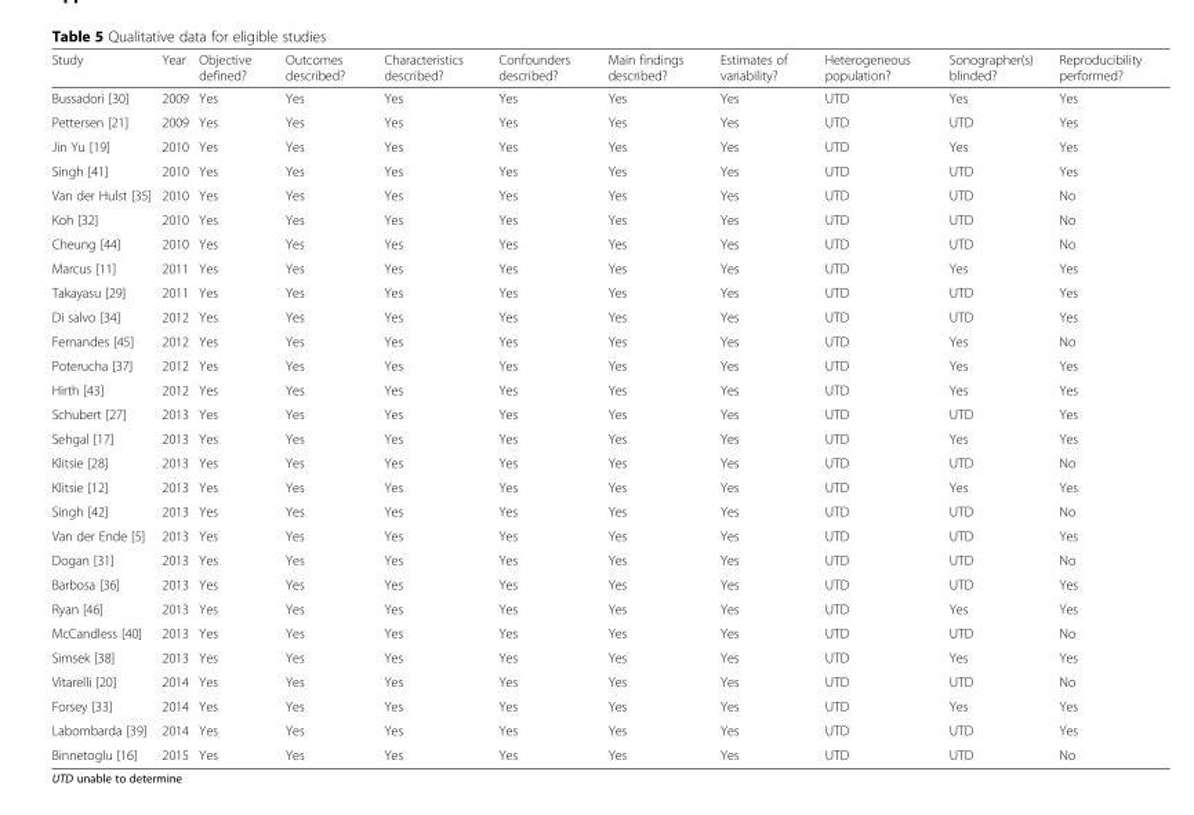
<table><thead><tr><td>Study</td><td>Year</td><td>Objective defined?</td><td>Outcomes described?</td><td>Characteristics described?</td><td>Confounders described?</td><td>Main findings described?</td><td>Estimates of variability?</td><td>Heterogeneous population?</td><td>Sonographer(s) blinded?</td><td>Reproducibility performed?</td></tr></thead><tbody><tr><td>Bussadori [30]</td><td>2009</td><td>Yes</td><td>Yes</td><td>Yes</td><td>Yes</td><td>Yes</td><td>Yes</td><td>UTD</td><td>Yes</td><td>Yes</td></tr><tr><td>Pettersen [21]</td><td>2009</td><td>Yes</td><td>Yes</td><td>Yes</td><td>Yes</td><td>Yes</td><td>Yes</td><td>UTD</td><td>UTD</td><td>Yes</td></tr><tr><td>Jin Yu [19]</td><td>2010</td><td>Yes</td><td>Yes</td><td>Yes</td><td>Yes</td><td>Yes</td><td>Yes</td><td>UTD</td><td>Yes</td><td>Yes</td></tr><tr><td>Singh [41]</td><td>2010</td><td>Yes</td><td>Yes</td><td>Yes</td><td>Yes</td><td>Yes</td><td>Yes</td><td>UTD</td><td>UTD</td><td>Yes</td></tr><tr><td>Van der Hulst [35]</td><td>2010</td><td>Yes</td><td>Yes</td><td>Yes</td><td>Yes</td><td>Yes</td><td>Yes</td><td>UTD</td><td>UTD</td><td>No</td></tr><tr><td>Koh [32]</td><td>2010</td><td>Yes</td><td>Yes</td><td>Yes</td><td>Yes</td><td>Yes</td><td>Yes</td><td>UTD</td><td>UTD</td><td>No</td></tr><tr><td>Cheung [44]</td><td>2010</td><td>Yes</td><td>Yes</td><td>Yes</td><td>Yes</td><td>Yes</td><td>Yes</td><td>UTD</td><td>UTD</td><td>No</td></tr><tr><td>Marcus [11]</td><td>2011</td><td>Yes</td><td>Yes</td><td>Yes</td><td>Yes</td><td>Yes</td><td>Yes</td><td>UTD</td><td>Yes</td><td>Yes</td></tr><tr><td>Takayasu [29]</td><td>2011</td><td>Yes</td><td>Yes</td><td>Yes</td><td>Yes</td><td>Yes</td><td>Yes</td><td>UTD</td><td>UTD</td><td>Yes</td></tr><tr><td>Di salvo [34]</td><td>2012</td><td>Yes</td><td>Yes</td><td>Yes</td><td>Yes</td><td>Yes</td><td>Yes</td><td>UTD</td><td>UTD</td><td>Yes</td></tr><tr><td>Fernandes [45]</td><td>2012</td><td>Yes</td><td>Yes</td><td>Yes</td><td>Yes</td><td>Yes</td><td>Yes</td><td>UTD</td><td>Yes</td><td>No</td></tr><tr><td>Poterucha [37]</td><td>2012</td><td>Yes</td><td>Yes</td><td>Yes</td><td>Yes</td><td>Yes</td><td>Yes</td><td>UTD</td><td>Yes</td><td>Yes</td></tr><tr><td>Hirth [43]</td><td>2012</td><td>Yes</td><td>Yes</td><td>Yes</td><td>Yes</td><td>Yes</td><td>Yes</td><td>UTD</td><td>Yes</td><td>Yes</td></tr><tr><td>Schubert [27]</td><td>2013</td><td>Yes</td><td>Yes</td><td>Yes</td><td>Yes</td><td>Yes</td><td>Yes</td><td>UTD</td><td>UTD</td><td>Yes</td></tr><tr><td>Sehgal [17]</td><td>2013</td><td>Yes</td><td>Yes</td><td>Yes</td><td>Yes</td><td>Yes</td><td>Yes</td><td>UTD</td><td>Yes</td><td>Yes</td></tr><tr><td>Klitsie [28]</td><td>2013</td><td>Yes</td><td>Yes</td><td>Yes</td><td>Yes</td><td>Yes</td><td>Yes</td><td>UTD</td><td>UTD</td><td>No</td></tr><tr><td>Klitsie [12]</td><td>2013</td><td>Yes</td><td>Yes</td><td>Yes</td><td>Yes</td><td>Yes</td><td>Yes</td><td>UTD</td><td>Yes</td><td>Yes</td></tr><tr><td>Singh [42]</td><td>2013</td><td>Yes</td><td>Yes</td><td>Yes</td><td>Yes</td><td>Yes</td><td>Yes</td><td>UTD</td><td>UTD</td><td>No</td></tr><tr><td>Van der Ende [5]</td><td>2013</td><td>Yes</td><td>Yes</td><td>Yes</td><td>Yes</td><td>Yes</td><td>Yes</td><td>UTD</td><td>UTD</td><td>Yes</td></tr><tr><td>Dogan [31]</td><td>2013</td><td>Yes</td><td>Yes</td><td>Yes</td><td>Yes</td><td>Yes</td><td>Yes</td><td>UTD</td><td>UTD</td><td>No</td></tr><tr><td>Barbosa [36]</td><td>2013</td><td>Yes</td><td>Yes</td><td>Yes</td><td>Yes</td><td>Yes</td><td>Yes</td><td>UTD</td><td>UTD</td><td>Yes</td></tr><tr><td>Ryan [46]</td><td>2013</td><td>Yes</td><td>Yes</td><td>Yes</td><td>Yes</td><td>Yes</td><td>Yes</td><td>UTD</td><td>Yes</td><td>Yes</td></tr><tr><td>McCandless [40]</td><td>2013</td><td>Yes</td><td>Yes</td><td>Yes</td><td>Yes</td><td>Yes</td><td>Yes</td><td>UTD</td><td>UTD</td><td>No</td></tr><tr><td>Simsek [38]</td><td>2013</td><td>Yes</td><td>Yes</td><td>Yes</td><td>Yes</td><td>Yes</td><td>Yes</td><td>UTD</td><td>Yes</td><td>Yes</td></tr><tr><td>Vitarelli [20]</td><td>2014</td><td>Yes</td><td>Yes</td><td>Yes</td><td>Yes</td><td>Yes</td><td>Yes</td><td>UTD</td><td>UTD</td><td>No</td></tr><tr><td>Forsey [33]</td><td>2014</td><td>Yes</td><td>Yes</td><td>Yes</td><td>Yes</td><td>Yes</td><td>Yes</td><td>UTD</td><td>Yes</td><td>Yes</td></tr><tr><td>Labombarda [39]</td><td>2014</td><td>Yes</td><td>Yes</td><td>Yes</td><td>Yes</td><td>Yes</td><td>Yes</td><td>UTD</td><td>UTD</td><td>Yes</td></tr><tr><td>Binnetoglu [16]</td><td>2015</td><td>Yes</td><td>Yes</td><td>Yes</td><td>Yes</td><td>Yes</td><td>Yes</td><td>UTD</td><td>UTD</td><td>No</td></tr></tbody></table>